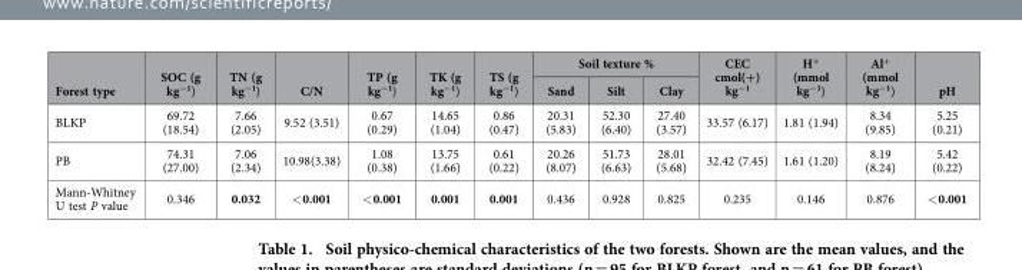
<table><thead><tr><td rowspan="2">Forest type</td><td rowspan="2">SOC (g kg<sup>−1</sup>)</td><td rowspan="2">TN (g kg<sup>−1</sup>)</td><td rowspan="2">C/N</td><td rowspan="2">TP (g kg<sup>−1</sup>)</td><td rowspan="2">TK (g kg<sup>−1</sup>)</td><td rowspan="2">TS (g kg<sup>−1</sup>)</td><td colspan="3">Soil texture %</td><td rowspan="2">CEC cmol(+) kg<sup>−1</sup></td><td rowspan="2">H<sup>+</sup> (mmol kg<sup>−1</sup>)</td><td rowspan="2">Al<sup>+</sup> (mmol kg<sup>−1</sup>)</td><td rowspan="2">pH</td></tr><tr><td>Sand</td><td>Silt</td><td>Clay</td></tr></thead><tbody><tr><td>BLKP</td><td>69.72 (18.54)</td><td>7.66 (2.05)</td><td>9.52 (3.51)</td><td>0.67 (0.29)</td><td>14.65 (1.04)</td><td>0.86 (0.47)</td><td>20.31 (5.83)</td><td>52.30 (6.40)</td><td>27.40 (3.57)</td><td>33.57 (6.17)</td><td>1.81 (1.94)</td><td>8.34 (9.85)</td><td>5.25 (0.21)</td></tr><tr><td>PB</td><td>74.31 (27.00)</td><td>7.06 (2.34)</td><td>10.98(3.38)</td><td>1.08 (0.38)</td><td>13.75 (1.66)</td><td>0.61 (0.22)</td><td>20.26 (8.07)</td><td>51.73 (6.63)</td><td>28.01 (5.68)</td><td>32.42 (7.45)</td><td>1.61 (1.20)</td><td>8.19 (8.24)</td><td>5.42 (0.22)</td></tr><tr><td>Mann-Whitney U test P value</td><td>0.346</td><td>0.032</td><td>&lt; 0.001</td><td>&lt; 0.001</td><td>0.001</td><td>0.001</td><td>0.436</td><td>0.928</td><td>0.825</td><td>0.235</td><td>0.146</td><td>0.876</td><td>&lt; 0.001</td></tr></tbody></table>